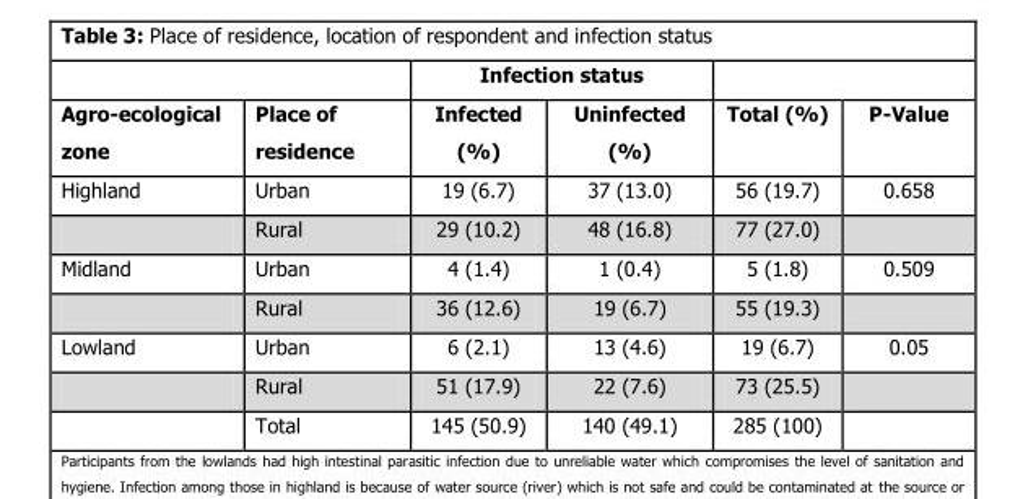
<table><thead><tr><td rowspan="2">Agro-ecological zone</td><td rowspan="2">Place of residence</td><td colspan="2">Infection status</td><td rowspan="2">Total (%)</td><td rowspan="2">P-Value</td></tr><tr><td>Infected (%)</td><td>Uninfected (%)</td></tr></thead><tbody><tr><td rowspan="2">Highland</td><td>Urban</td><td>19 (6.7)</td><td>37 (13.0)</td><td>56 (19.7)</td><td>0.658</td></tr><tr><td>Rural</td><td>29 (10.2)</td><td>48 (16.8)</td><td>77 (27.0)</td><td></td></tr><tr><td rowspan="2">Midland</td><td>Urban</td><td>4 (1.4)</td><td>1 (0.4)</td><td>5 (1.8)</td><td>0.509</td></tr><tr><td>Rural</td><td>36 (12.6)</td><td>19 (6.7)</td><td>55 (19.3)</td><td></td></tr><tr><td rowspan="3">Lowland</td><td>Urban</td><td>6 (2.1)</td><td>13 (4.6)</td><td>19 (6.7)</td><td>0.05</td></tr><tr><td>Rural</td><td>51 (17.9)</td><td>22 (7.6)</td><td>73 (25.5)</td><td></td></tr><tr><td>Total</td><td>145 (50.9)</td><td>140 (49.1)</td><td>285 (100)</td><td></td></tr></tbody></table>